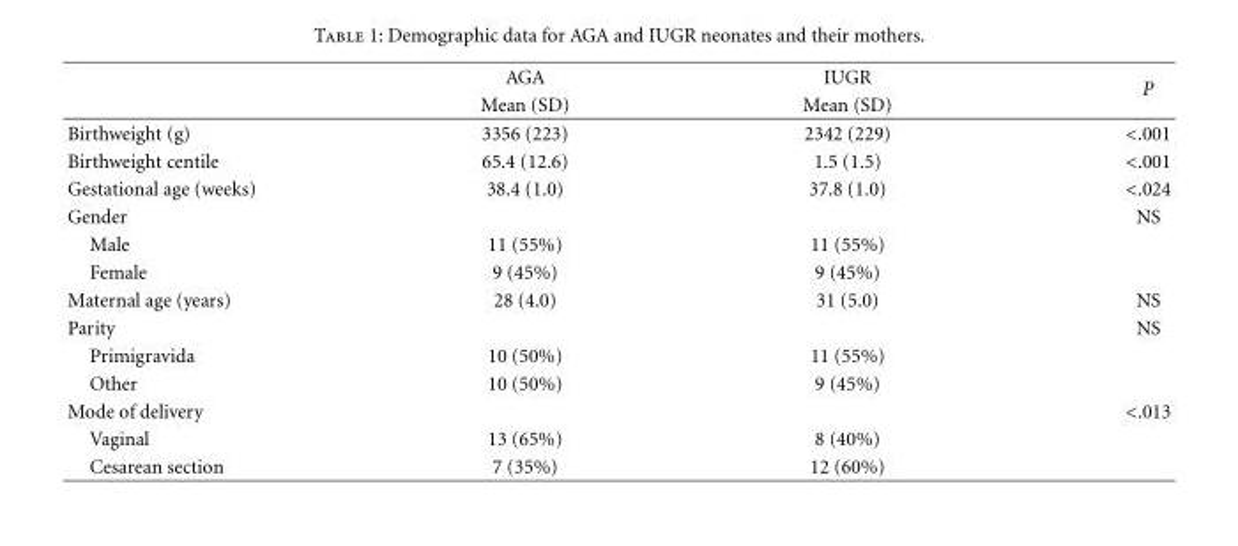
<table><thead><tr><td rowspan="2"></td><td rowspan="2">AGA Mean (SD)</td><td rowspan="2">IUGR Mean (SD)</td><td rowspan="2">P</td></tr><tr></tr></thead><tbody><tr><td>Birthweight (g)</td><td>3356 (223)</td><td>2342 (229)</td><td>&lt;.001</td></tr><tr><td>Birthweight centile</td><td>65.4 (12.6)</td><td>1.5 (1.5)</td><td>&lt;.001</td></tr><tr><td>Gestational age (weeks)</td><td>38.4 (1.0)</td><td>37.8 (1.0)</td><td>&lt;.024</td></tr><tr><td>Gender</td><td></td><td></td><td>NS</td></tr><tr><td>Male</td><td>11 (55%)</td><td>11 (55%)</td><td></td></tr><tr><td>Female</td><td>9 (45%)</td><td>9 (45%)</td><td></td></tr><tr><td>Maternal age (years)</td><td>28 (4.0)</td><td>31 (5.0)</td><td>NS</td></tr><tr><td>Parity</td><td></td><td></td><td>NS</td></tr><tr><td>Primigravida</td><td>10 (50%)</td><td>11 (55%)</td><td></td></tr><tr><td>Other</td><td>10 (50%)</td><td>9 (45%)</td><td></td></tr><tr><td>Mode of delivery</td><td></td><td></td><td>&lt;.013</td></tr><tr><td>Vaginal</td><td>13 (65%)</td><td>8 (40%)</td><td></td></tr><tr><td>Cesarean section</td><td>7 (35%)</td><td>12 (60%)</td><td></td></tr></tbody></table>